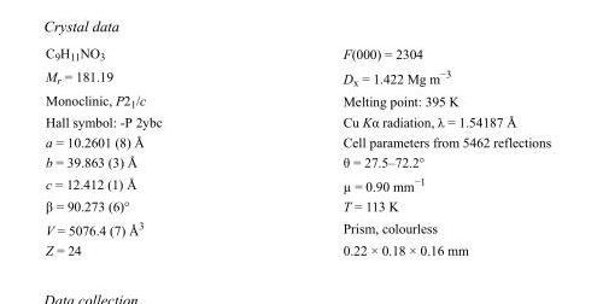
<table><tbody><tr><td>C<sub>9</sub>H<sub>11</sub>NO<sub>3</sub></td><td>F(000) = 2304</td></tr><tr><td>M<sub>r</sub> = 181.19</td><td>D<sub>x</sub> = 1.422 Mg m<sup>−3</sup></td></tr><tr><td>Monoclinic, P2<sub>1</sub>/c</td><td>Melting point: 395 K</td></tr><tr><td>Hall symbol: -P 2ybc</td><td>Cu Kα radiation, λ = 1.54187 Å</td></tr><tr><td>a = 10.2601 (8) Å</td><td>Cell parameters from 5462 reflections</td></tr><tr><td>b = 39.863 (3) Å</td><td>θ = 27.5–72.2°</td></tr><tr><td>c = 12.412 (1) Å</td><td>µ = 0.90 mm<sup>−1</sup></td></tr><tr><td>β = 90.273 (6)°</td><td>T = 113 K</td></tr><tr><td>V = 5076.4 (7) Å<sup>3</sup></td><td>Prism, colourless</td></tr><tr><td>Z = 24</td><td>0.22 × 0.18 × 0.16 mm</td></tr></tbody></table>